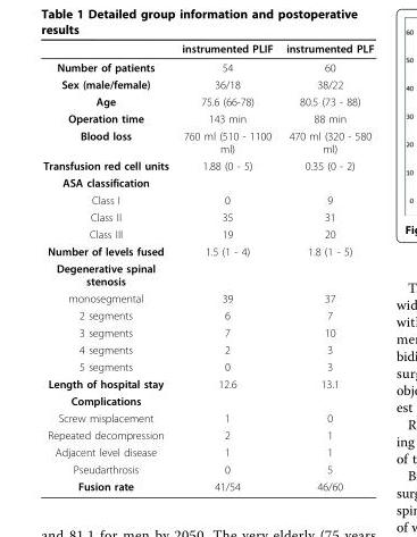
<table><thead><tr><td></td><td>instrumented PLIF</td><td>instrumented PLF</td></tr></thead><tbody><tr><td>Number of patients</td><td>54</td><td>60</td></tr><tr><td>Sex (male/female)</td><td>36/18</td><td>38/22</td></tr><tr><td>Age</td><td>75.6 (66-78)</td><td>80.5 (73 - 88)</td></tr><tr><td>Operation time</td><td>143 min</td><td>88 min</td></tr><tr><td>Blood loss</td><td>760 ml (510 - 1100 ml)</td><td>470 ml (320 - 580 ml)</td></tr><tr><td>Transfusion red cell units</td><td>1.88 (0 - 5)</td><td>0.35 (0 - 2)</td></tr><tr><td colspan="3">ASA classification</td></tr><tr><td>Class I</td><td>0</td><td>9</td></tr><tr><td>Class II</td><td>35</td><td>31</td></tr><tr><td>Class III</td><td>19</td><td>20</td></tr><tr><td>Number of levels fused</td><td>1.5 (1 - 4)</td><td>1.8 (1 - 5)</td></tr><tr><td colspan="3">Degenerative spinal stenosis</td></tr><tr><td>monosegmental</td><td>39</td><td>37</td></tr><tr><td>2 segments</td><td>6</td><td>7</td></tr><tr><td>3 segments</td><td>7</td><td>10</td></tr><tr><td>4 segments</td><td>2</td><td>3</td></tr><tr><td>5 segments</td><td>0</td><td>3</td></tr><tr><td>Length of hospital stay</td><td>12.6</td><td>13.1</td></tr><tr><td colspan="3">Complications</td></tr><tr><td>Screw misplacement</td><td>1</td><td>0</td></tr><tr><td>Repeated decompression</td><td>2</td><td>1</td></tr><tr><td>Adjacent level disease</td><td>1</td><td>1</td></tr><tr><td>Pseudarthrosis</td><td>0</td><td>5</td></tr><tr><td>Fusion rate</td><td>41/54</td><td>46/60</td></tr></tbody></table>